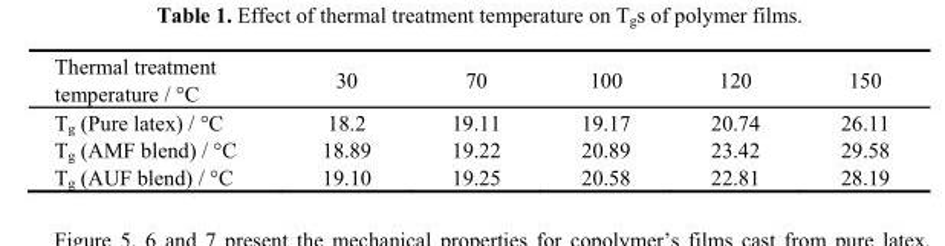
<table><thead><tr><td>Thermal treatment temperature / °C</td><td>30</td><td>70</td><td>100</td><td>120</td><td>150</td></tr></thead><tbody><tr><td>T<sub>g</sub> (Pure latex) / °C</td><td>18.2</td><td>19.11</td><td>19.17</td><td>20.74</td><td>26.11</td></tr><tr><td>T<sub>g</sub> (AMF blend) / °C</td><td>18.89</td><td>19.22</td><td>20.89</td><td>23.42</td><td>29.58</td></tr><tr><td>T<sub>g</sub> (AUF blend) / °C</td><td>19.10</td><td>19.25</td><td>20.58</td><td>22.81</td><td>28.19</td></tr></tbody></table>